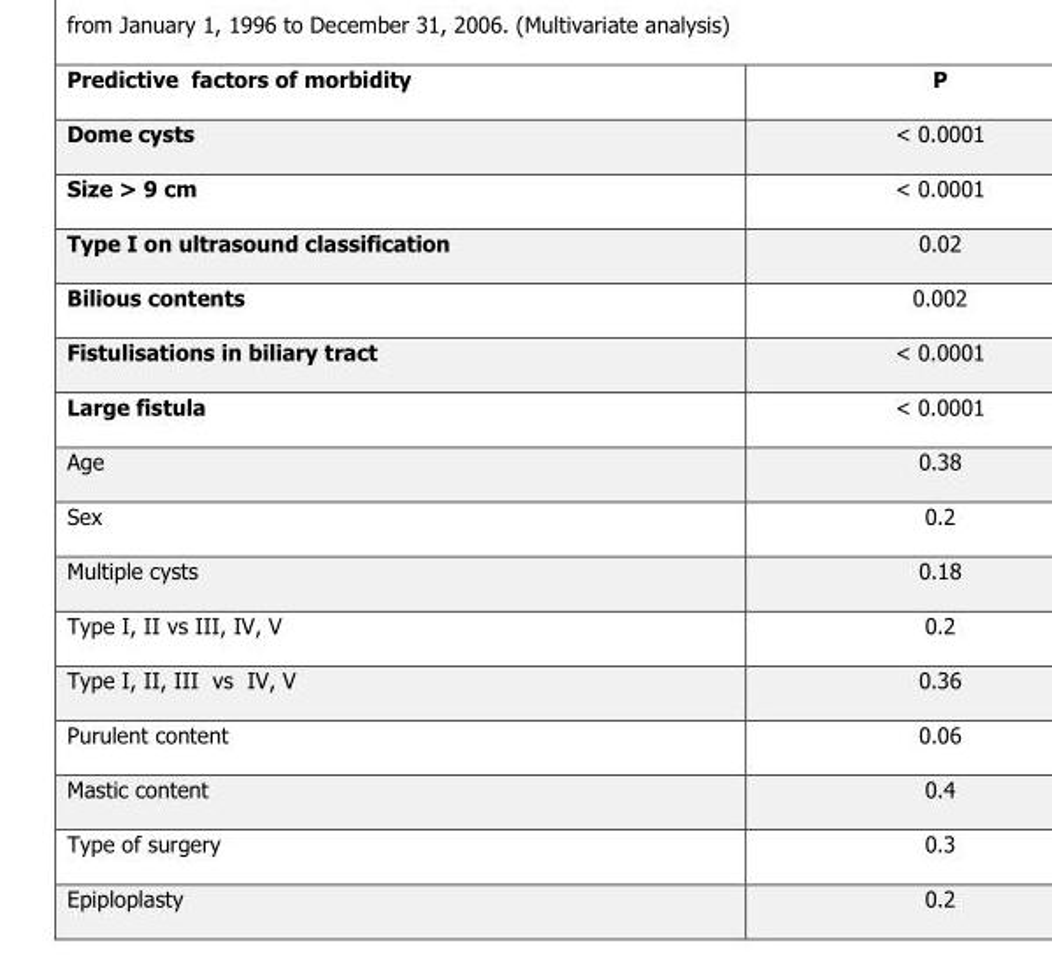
<table><thead><tr><td>Predictive factors of morbidity</td><td>P</td></tr></thead><tbody><tr><td>Dome cysts</td><td>&lt; 0.0001</td></tr><tr><td>Size &gt; 9 cm</td><td>&lt; 0.0001</td></tr><tr><td>Type I on ultrasound classification</td><td>0.02</td></tr><tr><td>Bilious contents</td><td>0.002</td></tr><tr><td>Fistulisations in biliary tract</td><td>&lt; 0.0001</td></tr><tr><td>Large fistula</td><td>&lt; 0.0001</td></tr><tr><td>Age</td><td>0.38</td></tr><tr><td>Sex</td><td>0.2</td></tr><tr><td>Multiple cysts</td><td>0.18</td></tr><tr><td>Type I, II vs III, IV, V</td><td>0.2</td></tr><tr><td>Type I, II, III vs IV, V</td><td>0.36</td></tr><tr><td>Purulent content</td><td>0.06</td></tr><tr><td>Mastic content</td><td>0.4</td></tr><tr><td>Type of surgery</td><td>0.3</td></tr><tr><td>Epiploplasty</td><td>0.2</td></tr></tbody></table>